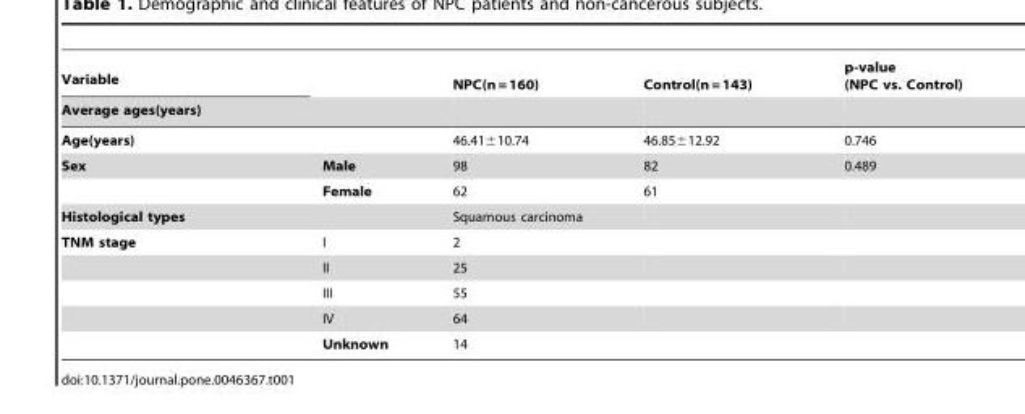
<table><thead><tr><td rowspan="2">Variable Average ages(years)</td><td rowspan="2"></td><td rowspan="2">NPC(n = 160)</td><td rowspan="2">Control(n = 143)</td><td rowspan="2">p-value (NPC vs. Control)</td></tr><tr></tr></thead><tbody><tr><td>Age(years)</td><td></td><td>46.41±10.74</td><td>46.85±12.92</td><td>0.746</td></tr><tr><td rowspan="2">Sex</td><td>Male</td><td>98</td><td>82</td><td>0.489</td></tr><tr><td>Female</td><td>62</td><td>61</td><td></td></tr><tr><td>Histological types</td><td></td><td>Squamous carcinoma</td><td></td><td></td></tr><tr><td rowspan="5">TNM stage</td><td>I</td><td>2</td><td></td><td></td></tr><tr><td>II</td><td>25</td><td></td><td></td></tr><tr><td>III</td><td>55</td><td></td><td></td></tr><tr><td>IV</td><td>64</td><td></td><td></td></tr><tr><td>Unknown</td><td>14</td><td></td><td></td></tr></tbody></table>